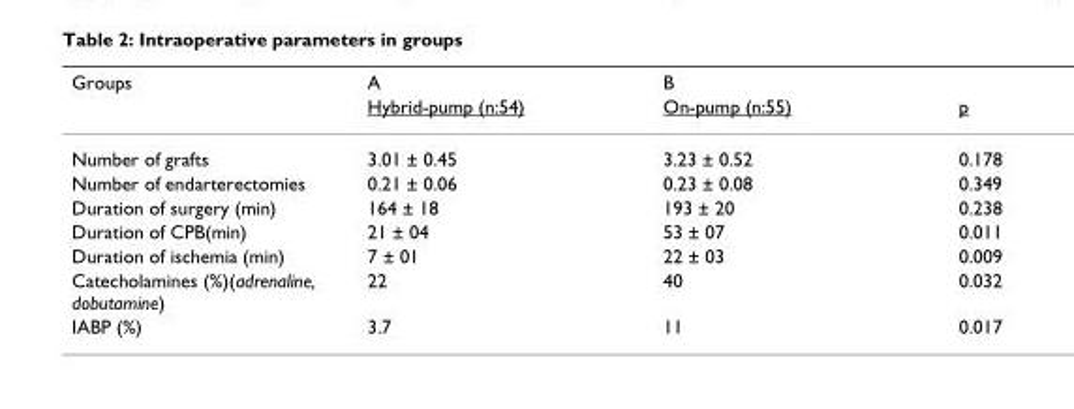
<table><thead><tr><td rowspan="2">Groups</td><td rowspan="2">A Hybrid-pump (n:54)</td><td rowspan="2">B On-pump (n:55)</td><td rowspan="2">p</td></tr><tr></tr></thead><tbody><tr><td>Number of grafts</td><td>3.01 ± 0.45</td><td>3.23 ± 0.52</td><td>0.178</td></tr><tr><td>Number of endarterectomies</td><td>0.21 ± 0.06</td><td>0.23 ± 0.08</td><td>0.349</td></tr><tr><td>Duration of surgery (min)</td><td>164 ± 18</td><td>193 ± 20</td><td>0.238</td></tr><tr><td>Duration of CPB(min)</td><td>21 ± 04</td><td>53 ± 07</td><td>0.011</td></tr><tr><td>Duration of ischemia (min)</td><td>7 ± 01</td><td>22 ± 03</td><td>0.009</td></tr><tr><td>Catecholamines (%)(adrenaline, dobutamine)</td><td>22</td><td>40</td><td>0.032</td></tr><tr><td>IABP (%)</td><td>3.7</td><td>11</td><td>0.017</td></tr></tbody></table>